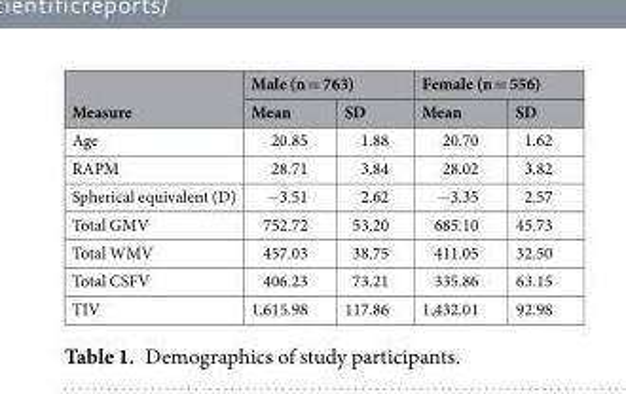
<table><thead><tr><td rowspan="2">Measure</td><td colspan="2">Male (n = 763)</td><td colspan="2">Female (n = 556)</td></tr><tr><td>Mean</td><td>SD</td><td>Mean</td><td>SD</td></tr></thead><tbody><tr><td>Age</td><td>20.85</td><td>1.88</td><td>20.70</td><td>1.62</td></tr><tr><td>RAPM</td><td>28.71</td><td>3.84</td><td>28.02</td><td>3.82</td></tr><tr><td>Spherical equivalent (D)</td><td>−3.51</td><td>2.62</td><td>−3.35</td><td>2.57</td></tr><tr><td>Total GMV</td><td>752.72</td><td>53.20</td><td>685.10</td><td>45.73</td></tr><tr><td>Total WMV</td><td>457.03</td><td>38.75</td><td>411.05</td><td>32.50</td></tr><tr><td>Total CSFV</td><td>406.23</td><td>73.21</td><td>335.86</td><td>63.15</td></tr><tr><td>TIV</td><td>1,615.98</td><td>117.86</td><td>1,432.01</td><td>92.98</td></tr></tbody></table>